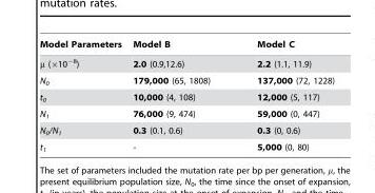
<table><thead><tr><td>Model Parameters</td><td>Model B</td><td>Model C</td></tr></thead><tbody><tr><td>μ (×10<sup>−8</sup>)</td><td>2.0 (0.9,12.6)</td><td>2.2 (1.1, 11.9)</td></tr><tr><td>N<sub>0</sub></td><td>179,000 (65, 1808)</td><td>137,000 (72, 1228)</td></tr><tr><td>t<sub>0</sub></td><td>10,000 (4, 108)</td><td>12,000 (5, 117)</td></tr><tr><td>N<sub>1</sub></td><td>76,000 (9, 474)</td><td>59,000 (0, 447)</td></tr><tr><td>N<sub>0</sub>/N<sub>1</sub></td><td>0.3 (0.1, 0.6)</td><td>0.3 (0, 0.6)</td></tr><tr><td>t<sub>1</sub></td><td>-</td><td>5,000 (0, 80)</td></tr></tbody></table>